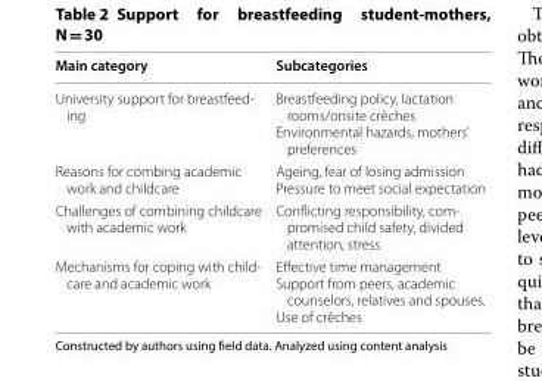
<table><thead><tr><td>Main category</td><td>Subcategories</td></tr></thead><tbody><tr><td>University support for breastfeed- ing</td><td>Breastfeeding policy, lactation rooms/onsite crèches Environmental hazards, mothers’ preferences</td></tr><tr><td>Reasons for combing academic work and childcare</td><td>Ageing, fear of losing admission Pressure to meet social expectation</td></tr><tr><td>Challenges of combining childcare with academic work</td><td>Conflicting responsibility, com- promised child safety, divided attention, stress</td></tr><tr><td>Mechanisms for coping with child- care and academic work</td><td>Effective time management Support from peers, academic counselors, relatives and spouses. Use of crèches</td></tr></tbody></table>